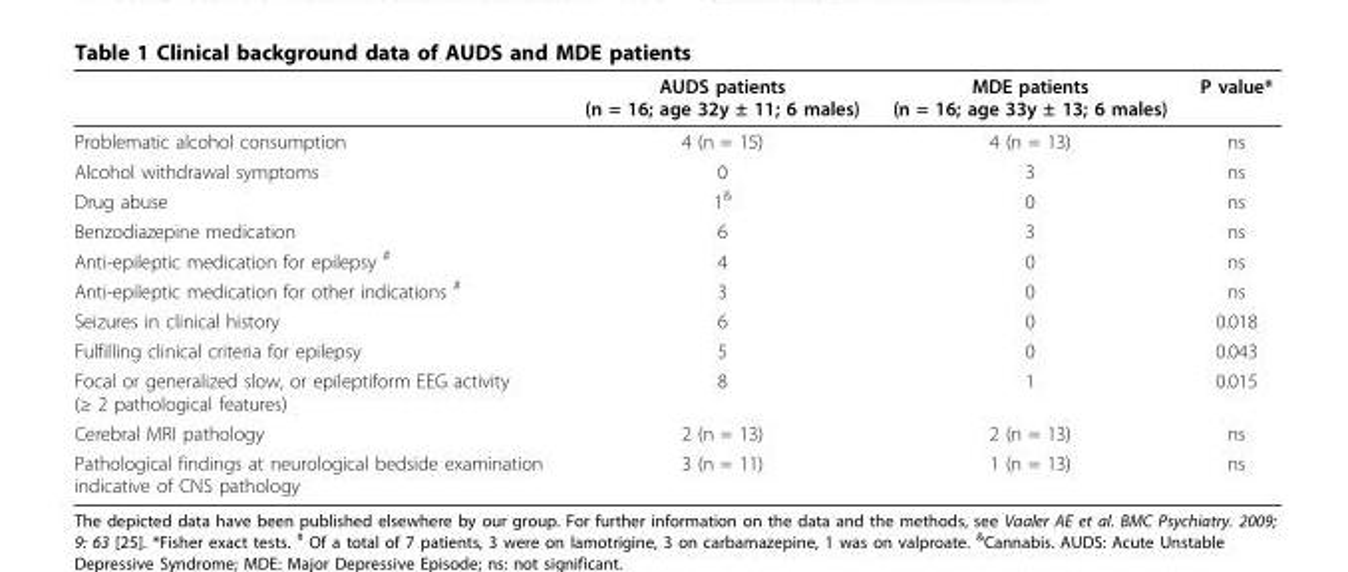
<table><thead><tr><td></td><td>AUDS patients (n = 16; age 32y ± 11; 6 males)</td><td>MDE patients (n = 16; age 33y ± 13; 6 males)</td><td>P value*</td></tr></thead><tbody><tr><td>Problematic alcohol consumption</td><td>4 (n = 15)</td><td>4 (n = 13)</td><td>ns</td></tr><tr><td>Alcohol withdrawal symptoms</td><td>0</td><td>3</td><td>ns</td></tr><tr><td>Drug abuse</td><td>1<sup>&amp;</sup></td><td>0</td><td>ns</td></tr><tr><td>Benzodiazepine medication</td><td>6</td><td>3</td><td>ns</td></tr><tr><td>Anti-epileptic medication for epilepsy <sup>#</sup></td><td>4</td><td>0</td><td>ns</td></tr><tr><td>Anti-epileptic medication for other indications <sup>#</sup></td><td>3</td><td>0</td><td>ns</td></tr><tr><td>Seizures in clinical history</td><td>6</td><td>0</td><td>0.018</td></tr><tr><td>Fulfilling clinical criteria for epilepsy</td><td>5</td><td>0</td><td>0.043</td></tr><tr><td>Focal or generalized slow, or epileptiform EEG activity (≥ 2 pathological features)</td><td>8</td><td>1</td><td>0.015</td></tr><tr><td>Cerebral MRI pathology</td><td>2 (n = 13)</td><td>2 (n = 13)</td><td>ns</td></tr><tr><td>Pathological findings at neurological bedside examination indicative of CNS pathology</td><td>3 (n = 11)</td><td>1 (n = 13)</td><td>ns</td></tr></tbody></table>